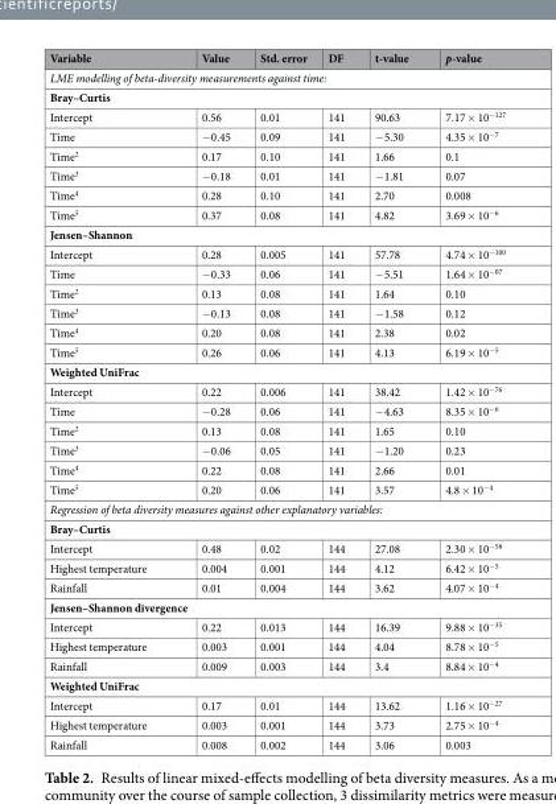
<table><thead><tr><td>Variable</td><td>Value</td><td>Std. error</td><td>DF</td><td>t-value</td><td>p-value</td></tr></thead><tbody><tr><td colspan="6">LME modelling of beta-diversity measurements against time:</td></tr><tr><td colspan="6">Bray–Curtis</td></tr><tr><td>Intercept</td><td>0.56</td><td>0.01</td><td>141</td><td>90.63</td><td>7.17 × 10<sup>−127</sup></td></tr><tr><td>Time</td><td>−0.45</td><td>0.09</td><td>141</td><td>−5.30</td><td>4.35 × 10<sup>−7</sup></td></tr><tr><td>Time<sup>2</sup></td><td>0.17</td><td>0.10</td><td>141</td><td>1.66</td><td>0.1</td></tr><tr><td>Time<sup>3</sup></td><td>−0.18</td><td>0.01</td><td>141</td><td>−1.81</td><td>0.07</td></tr><tr><td>Time<sup>4</sup></td><td>0.28</td><td>0.10</td><td>141</td><td>2.70</td><td>0.008</td></tr><tr><td>Time<sup>5</sup></td><td>0.37</td><td>0.08</td><td>141</td><td>4.82</td><td>3.69 × 10<sup>−6</sup></td></tr><tr><td colspan="6">Jensen–Shannon</td></tr><tr><td>Intercept</td><td>0.28</td><td>0.005</td><td>141</td><td>57.78</td><td>4.74 × 10<sup>−100</sup></td></tr><tr><td>Time</td><td>−0.33</td><td>0.06</td><td>141</td><td>−5.51</td><td>1.64 × 10<sup>−07</sup></td></tr><tr><td>Time<sup>2</sup></td><td>0.13</td><td>0.08</td><td>141</td><td>1.64</td><td>0.10</td></tr><tr><td>Time<sup>3</sup></td><td>−0.13</td><td>0.08</td><td>141</td><td>−1.58</td><td>0.12</td></tr><tr><td>Time<sup>4</sup></td><td>0.20</td><td>0.08</td><td>141</td><td>2.38</td><td>0.02</td></tr><tr><td>Time<sup>5</sup></td><td>0.26</td><td>0.06</td><td>141</td><td>4.13</td><td>6.19 × 10<sup>−5</sup></td></tr><tr><td colspan="6">Weighted UniFrac</td></tr><tr><td>Intercept</td><td>0.22</td><td>0.006</td><td>141</td><td>38.42</td><td>1.42 × 10<sup>−76</sup></td></tr><tr><td>Time</td><td>−0.28</td><td>0.06</td><td>141</td><td>−4.63</td><td>8.35 × 10<sup>−6</sup></td></tr><tr><td>Time<sup>2</sup></td><td>0.13</td><td>0.08</td><td>141</td><td>1.65</td><td>0.10</td></tr><tr><td>Time<sup>3</sup></td><td>−0.06</td><td>0.05</td><td>141</td><td>−1.20</td><td>0.23</td></tr><tr><td>Time<sup>4</sup></td><td>0.22</td><td>0.08</td><td>141</td><td>2.66</td><td>0.01</td></tr><tr><td>Time<sup>5</sup></td><td>0.20</td><td>0.06</td><td>141</td><td>3.57</td><td>4.8 × 10<sup>−4</sup></td></tr><tr><td colspan="6">Regression of beta diversity measures against other explanatory variables:</td></tr><tr><td colspan="6">Bray–Curtis</td></tr><tr><td>Intercept</td><td>0.48</td><td>0.02</td><td>144</td><td>27.08</td><td>2.30 × 10<sup>−58</sup></td></tr><tr><td>Highest temperature</td><td>0.004</td><td>0.001</td><td>144</td><td>4.12</td><td>6.42 × 10<sup>−5</sup></td></tr><tr><td>Rainfall</td><td>0.01</td><td>0.004</td><td>144</td><td>3.62</td><td>4.07 × 10<sup>−4</sup></td></tr><tr><td colspan="6">Jensen–Shannon divergence</td></tr><tr><td>Intercept</td><td>0.22</td><td>0.013</td><td>144</td><td>16.39</td><td>9.88 × 10<sup>−35</sup></td></tr><tr><td>Highest temperature</td><td>0.003</td><td>0.001</td><td>144</td><td>4.04</td><td>8.78 × 10<sup>−5</sup></td></tr><tr><td>Rainfall</td><td>0.009</td><td>0.003</td><td>144</td><td>3.4</td><td>8.84 × 10<sup>−4</sup></td></tr><tr><td colspan="6">Weighted UniFrac</td></tr><tr><td>Intercept</td><td>0.17</td><td>0.01</td><td>144</td><td>13.62</td><td>1.16 × 10<sup>−27</sup></td></tr><tr><td>Highest temperature</td><td>0.003</td><td>0.001</td><td>144</td><td>3.73</td><td>2.75 × 10<sup>−4</sup></td></tr><tr><td>Rainfall</td><td>0.008</td><td>0.002</td><td>144</td><td>3.06</td><td>0.003</td></tr></tbody></table>